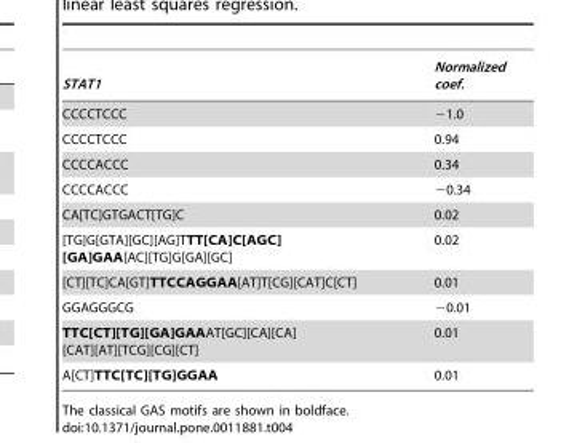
<table><thead><tr><td>STAT1</td><td>Normalized coef.</td></tr></thead><tbody><tr><td>CCCCTCCC</td><td>−1.0</td></tr><tr><td>CCCCTCCC</td><td>0.94</td></tr><tr><td>CCCCACCC</td><td>0.34</td></tr><tr><td>CCCCACCC</td><td>−0.34</td></tr><tr><td>CA[TC]GTGACT[TG]C</td><td>0.02</td></tr><tr><td>[TG]G[GTA][GC][AG]TTT[CA]C[AGC] [GA]GAA[AC][TG]G[GA][GC]</td><td>0.02</td></tr><tr><td>[CT][TC]CA[GT]TTCCAGGAA[AT]T[CG][CAT]C[CT]</td><td>0.01</td></tr><tr><td>GGAGGGCG</td><td>−0.01</td></tr><tr><td>TTC[CT][TG][GA]GAAAT[GC][CA][CA] [CAT][AT][TCG][CG][CT]</td><td>0.01</td></tr><tr><td>A[CT]TTC[TC][TG]GGAA</td><td>0.01</td></tr></tbody></table>